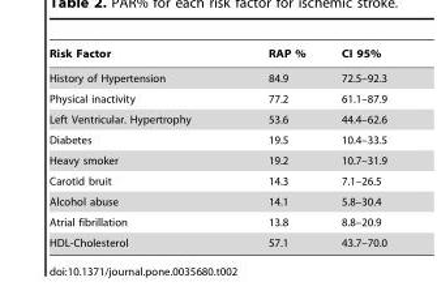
<table><thead><tr><td>Risk Factor</td><td>RAP %</td><td>CI 95%</td></tr></thead><tbody><tr><td>History of Hypertension</td><td>84.9</td><td>72.5–92.3</td></tr><tr><td>Physical inactivity</td><td>77.2</td><td>61.1–87.9</td></tr><tr><td>Left Ventricular. Hypertrophy</td><td>53.6</td><td>44.4–62.6</td></tr><tr><td>Diabetes</td><td>19.5</td><td>10.4–33.5</td></tr><tr><td>Heavy smoker</td><td>19.2</td><td>10.7–31.9</td></tr><tr><td>Carotid bruit</td><td>14.3</td><td>7.1–26.5</td></tr><tr><td>Alcohol abuse</td><td>14.1</td><td>5.8–30.4</td></tr><tr><td>Atrial fibrillation</td><td>13.8</td><td>8.8–20.9</td></tr><tr><td>HDL-Cholesterol</td><td>57.1</td><td>43.7–70.0</td></tr></tbody></table>